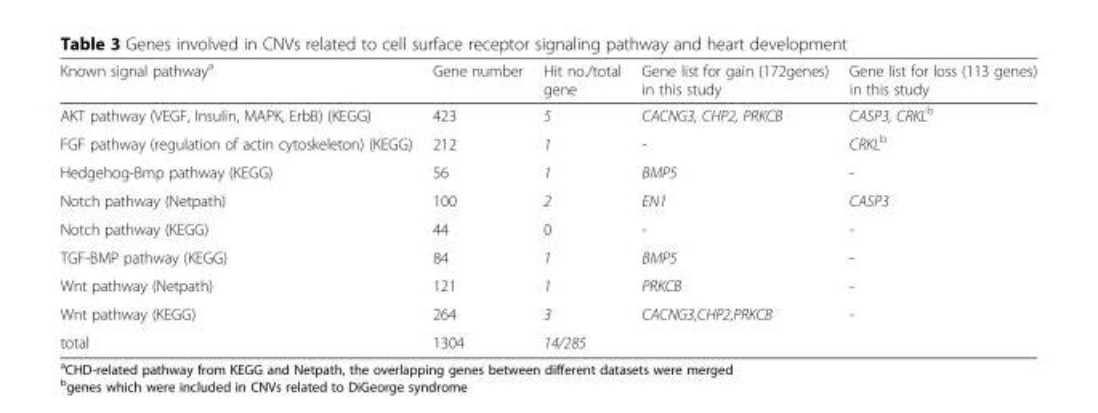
<table><thead><tr><td>Known signal pathway<sup>a</sup></td><td>Gene number</td><td>Hit no./total gene</td><td>Gene list for gain (172genes) in this study</td><td>Gene list for loss (113 genes) in this study</td></tr></thead><tbody><tr><td>AKT pathway (VEGF, Insulin, MAPK, ErbB) (KEGG)</td><td>423</td><td>5</td><td>CACNG3, CHP2, PRKCB</td><td>CASP3, CRKL<sup>b</sup></td></tr><tr><td>FGF pathway (regulation of actin cytoskeleton) (KEGG)</td><td>212</td><td>1</td><td>-</td><td>CRKL<sup>b</sup></td></tr><tr><td>Hedgehog-Bmp pathway (KEGG)</td><td>56</td><td>1</td><td>BMP5</td><td>-</td></tr><tr><td>Notch pathway (Netpath)</td><td>100</td><td>2</td><td>EN1</td><td>CASP3</td></tr><tr><td>Notch pathway (KEGG)</td><td>44</td><td>0</td><td>-</td><td>-</td></tr><tr><td>TGF-BMP pathway (KEGG)</td><td>84</td><td>1</td><td>BMP5</td><td>-</td></tr><tr><td>Wnt pathway (Netpath)</td><td>121</td><td>1</td><td>PRKCB</td><td>-</td></tr><tr><td>Wnt pathway (KEGG)</td><td>264</td><td>3</td><td>CACNG3,CHP2,PRKCB</td><td>-</td></tr><tr><td>total</td><td>1304</td><td>14/285</td><td></td><td></td></tr></tbody></table>